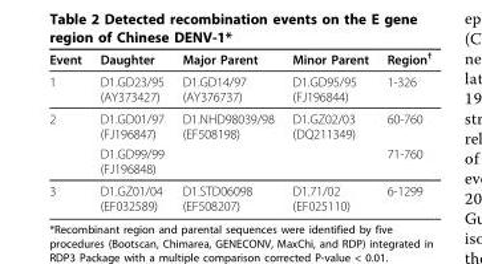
<table><thead><tr><td>Event</td><td>Daughter</td><td>Major Parent</td><td>Minor Parent</td><td>Region<sup>†</sup></td></tr></thead><tbody><tr><td>1</td><td>D1.GD23/95 (AY373427)</td><td>D1.GD14/97 (AY376737)</td><td>D1.GD95/95 (FJ196844)</td><td>1-326</td></tr><tr><td rowspan="2">2</td><td>D1.GD01/97 (FJ196847)</td><td>D1.NHD98039/98 (EF508198)</td><td>D1.GZ02/03 (DQ211349)</td><td>60-760</td></tr><tr><td>D1.GD99/99 (FJ196848)</td><td></td><td></td><td>71-760</td></tr><tr><td>3</td><td>D1.GZ01/04 (EF032589)</td><td>D1.STD06098 (EF508207)</td><td>D1.71/02 (EF025110)</td><td>6-1299</td></tr></tbody></table>